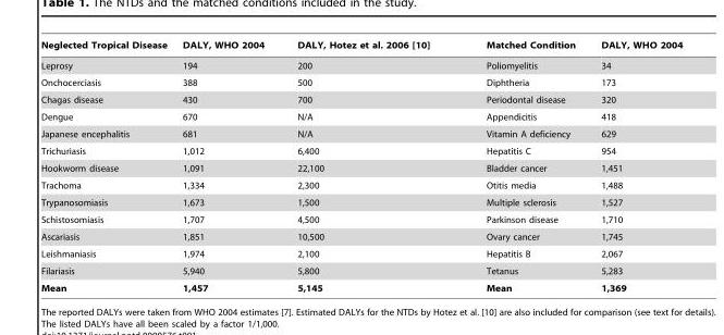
<table><thead><tr><td>Neglected Tropical Disease</td><td>DALY, WHO 2004</td><td>DALY, Hotez et al. 2006 [10]</td><td>Matched Condition</td><td>DALY, WHO 2004</td></tr></thead><tbody><tr><td>Leprosy</td><td>194</td><td>200</td><td>Poliomyelitis</td><td>34</td></tr><tr><td>Onchocerciasis</td><td>388</td><td>500</td><td>Diphtheria</td><td>173</td></tr><tr><td>Chagas disease</td><td>430</td><td>700</td><td>Periodontal disease</td><td>320</td></tr><tr><td>Dengue</td><td>670</td><td>N/A</td><td>Appendicitis</td><td>418</td></tr><tr><td>Japanese encephalitis</td><td>681</td><td>N/A</td><td>Vitamin A deficiency</td><td>629</td></tr><tr><td>Trichuriasis</td><td>1,012</td><td>6,400</td><td>Hepatitis C</td><td>954</td></tr><tr><td>Hookworm disease</td><td>1,091</td><td>22,100</td><td>Bladder cancer</td><td>1,451</td></tr><tr><td>Trachoma</td><td>1,334</td><td>2,300</td><td>Otitis media</td><td>1,488</td></tr><tr><td>Trypanosomiasis</td><td>1,673</td><td>1,500</td><td>Multiple sclerosis</td><td>1,527</td></tr><tr><td>Schistosomiasis</td><td>1,707</td><td>4,500</td><td>Parkinson disease</td><td>1,710</td></tr><tr><td>Ascariasis</td><td>1,851</td><td>10,500</td><td>Ovary cancer</td><td>1,745</td></tr><tr><td>Leishmaniasis</td><td>1,974</td><td>2,100</td><td>Hepatitis B</td><td>2,067</td></tr><tr><td>Filariasis</td><td>5,940</td><td>5,800</td><td>Tetanus</td><td>5,283</td></tr><tr><td>Mean</td><td>1,457</td><td>5,145</td><td>Mean</td><td>1,369</td></tr></tbody></table>